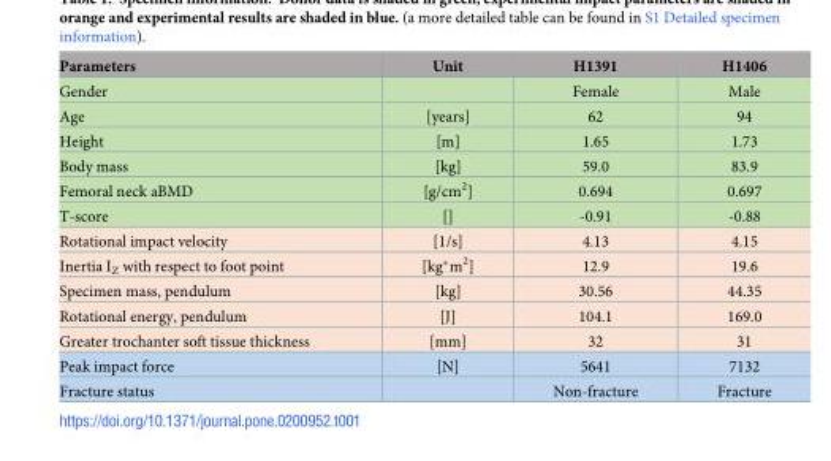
<table><thead><tr><td>Parameters</td><td>Unit</td><td>H1391</td><td>H1406</td></tr></thead><tbody><tr><td>Gender</td><td></td><td>Female</td><td>Male</td></tr><tr><td>Age</td><td>[years]</td><td>62</td><td>94</td></tr><tr><td>Height</td><td>[m]</td><td>1.65</td><td>1.73</td></tr><tr><td>Body mass</td><td>[kg]</td><td>59.0</td><td>83.9</td></tr><tr><td>Femoral neck aBMD</td><td>[g/cm<sup>2</sup>]</td><td>0.694</td><td>0.697</td></tr><tr><td>T-score</td><td>[]</td><td>-0.91</td><td>-0.88</td></tr><tr><td>Rotational impact velocity</td><td>[1/s]</td><td>4.13</td><td>4.15</td></tr><tr><td>Inertia I<sub>Z</sub> with respect to foot point</td><td>[kg*m<sup>2</sup>]</td><td>12.9</td><td>19.6</td></tr><tr><td>Specimen mass, pendulum</td><td>[kg]</td><td>30.56</td><td>44.35</td></tr><tr><td>Rotational energy, pendulum</td><td>[J]</td><td>104.1</td><td>169.0</td></tr><tr><td>Greater trochanter soft tissue thickness</td><td>[mm]</td><td>32</td><td>31</td></tr><tr><td>Peak impact force</td><td>[N]</td><td>5641</td><td>7132</td></tr><tr><td>Fracture status</td><td></td><td>Non-fracture</td><td>Fracture</td></tr></tbody></table>